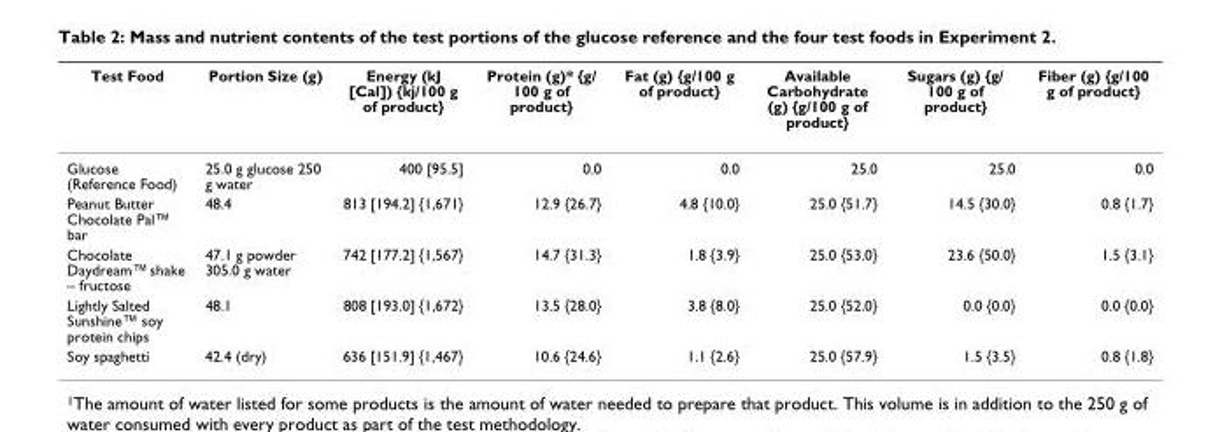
<table><thead><tr><td>Test Food</td><td>Portion Size (g)</td><td>Energy (kJ [Cal]) {kj/100 g of product}</td><td>Protein (g)* {g/ 100 g of product}</td><td>Fat (g) {g/100 g of product}</td><td>Available Carbohydrate (g) {g/100 g of product}</td><td>Sugars (g) {g/ 100 g of product}</td><td>Fiber (g) {g/100 g of product}</td></tr></thead><tbody><tr><td>Glucose (Reference Food)</td><td>25.0 g glucose 250 g water</td><td>400 [95.5]</td><td>0.0</td><td>0.0</td><td>25.0</td><td>25.0</td><td>0.0</td></tr><tr><td>Peanut Butter Chocolate Pal™ bar</td><td>48.4</td><td>813 [194.2] {1,671}</td><td>12.9 {26.7}</td><td>4.8 {10.0}</td><td>25.0 {51.7}</td><td>14.5 {30.0}</td><td>0.8 {1.7}</td></tr><tr><td>Chocolate Daydream™ shake – fructose</td><td>47.1 g powder 305.0 g water</td><td>742 [177.2] {1,567}</td><td>14.7 {31.3}</td><td>1.8 {3.9}</td><td>25.0 {53.0}</td><td>23.6 {50.0}</td><td>1.5 {3.1}</td></tr><tr><td>Lightly Salted Sunshine™ soy protein chips</td><td>48.1</td><td>808 [193.0] {1,672}</td><td>13.5 {28.0}</td><td>3.8 {8.0}</td><td>25.0 {52.0}</td><td>0.0 {0.0}</td><td>0.0 {0.0}</td></tr><tr><td>Soy spaghetti</td><td>42.4 (dry)</td><td>636 [151.9] {1,467}</td><td>10.6 {24.6}</td><td>1.1 {2.6}</td><td>25.0 {57.9}</td><td>1.5 {3.5}</td><td>0.8 {1.8}</td></tr></tbody></table>